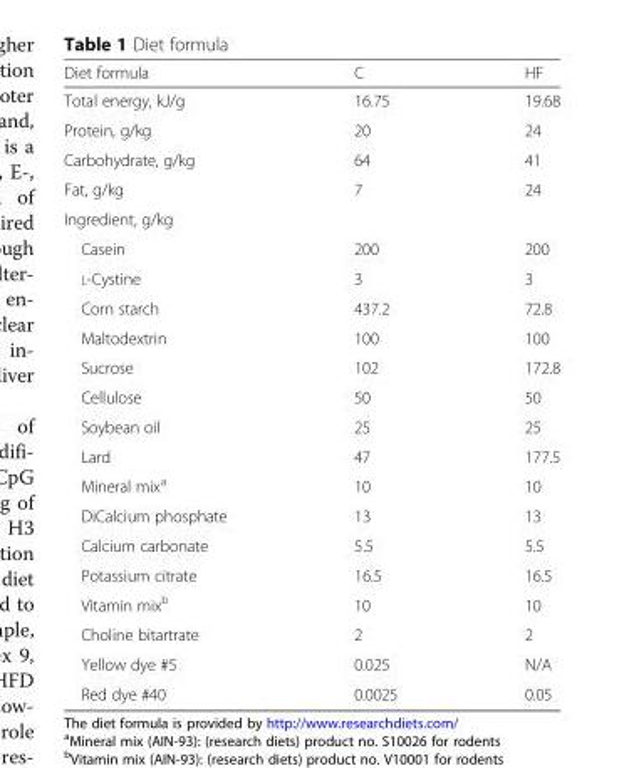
<table><thead><tr><td>Diet formula</td><td>C</td><td>HF</td></tr></thead><tbody><tr><td>Total energy, kJ/g</td><td>16.75</td><td>19.68</td></tr><tr><td>Protein, g/kg</td><td>20</td><td>24</td></tr><tr><td>Carbohydrate, g/kg</td><td>64</td><td>41</td></tr><tr><td>Fat, g/kg</td><td>7</td><td>24</td></tr><tr><td colspan="3">Ingredient, g/kg</td></tr><tr><td>Casein</td><td>200</td><td>200</td></tr><tr><td>L-Cystine</td><td>3</td><td>3</td></tr><tr><td>Corn starch</td><td>437.2</td><td>72.8</td></tr><tr><td>Maltodextrin</td><td>100</td><td>100</td></tr><tr><td>Sucrose</td><td>102</td><td>172.8</td></tr><tr><td>Cellulose</td><td>50</td><td>50</td></tr><tr><td>Soybean oil</td><td>25</td><td>25</td></tr><tr><td>Lard</td><td>47</td><td>177.5</td></tr><tr><td>Mineral mix<sup>a</sup></td><td>10</td><td>10</td></tr><tr><td>DiCalcium phosphate</td><td>13</td><td>13</td></tr><tr><td>Calcium carbonate</td><td>5.5</td><td>5.5</td></tr><tr><td>Potassium citrate</td><td>16.5</td><td>16.5</td></tr><tr><td>Vitamin mix<sup>b</sup></td><td>10</td><td>10</td></tr><tr><td>Choline bitartrate</td><td>2</td><td>2</td></tr><tr><td>Yellow dye #5</td><td>0.025</td><td>N/A</td></tr><tr><td>Red dye #40</td><td>0.0025</td><td>0.05</td></tr></tbody></table>